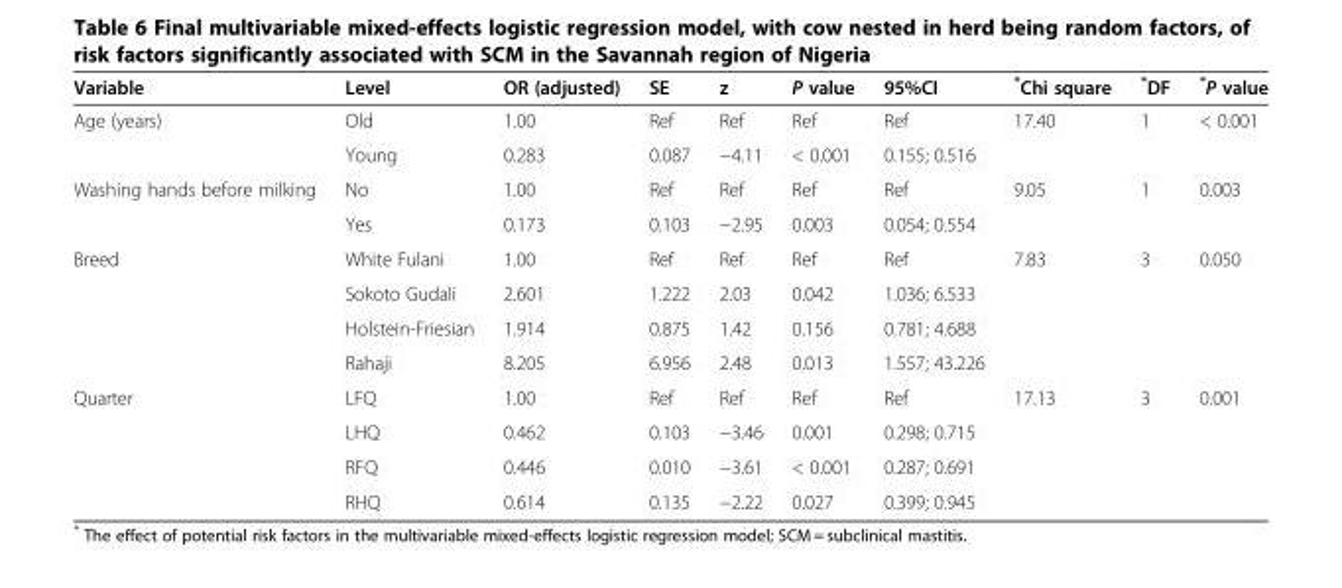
<table><thead><tr><td>Variable</td><td>Level</td><td>OR (adjusted)</td><td>SE</td><td>z</td><td>P value</td><td>95%CI</td><td>*Chi square</td><td>*DF</td><td>*P value</td></tr></thead><tbody><tr><td rowspan="2">Age (years)</td><td>Old</td><td>1.00</td><td>Ref</td><td>Ref</td><td>Ref</td><td>Ref</td><td>17.40</td><td>1</td><td>&lt; 0.001</td></tr><tr><td>Young</td><td>0.283</td><td>0.087</td><td>−4.11</td><td>&lt; 0.001</td><td>0.155; 0.516</td><td></td><td></td><td></td></tr><tr><td rowspan="2">Washing hands before milking</td><td>No</td><td>1.00</td><td>Ref</td><td>Ref</td><td>Ref</td><td>Ref</td><td>9.05</td><td>1</td><td>0.003</td></tr><tr><td>Yes</td><td>0.173</td><td>0.103</td><td>−2.95</td><td>0.003</td><td>0.054; 0.554</td><td></td><td></td><td></td></tr><tr><td rowspan="4">Breed</td><td>White Fulani</td><td>1.00</td><td>Ref</td><td>Ref</td><td>Ref</td><td>Ref</td><td>7.83</td><td>3</td><td>0.050</td></tr><tr><td>Sokoto Gudali</td><td>2.601</td><td>1.222</td><td>2.03</td><td>0.042</td><td>1.036; 6.533</td><td></td><td></td><td></td></tr><tr><td>Holstein-Friesian</td><td>1.914</td><td>0.875</td><td>1.42</td><td>0.156</td><td>0.781; 4.688</td><td></td><td></td><td></td></tr><tr><td>Rahaji</td><td>8.205</td><td>6.956</td><td>2.48</td><td>0.013</td><td>1.557; 43.226</td><td></td><td></td><td></td></tr><tr><td rowspan="4">Quarter</td><td>LFQ</td><td>1.00</td><td>Ref</td><td>Ref</td><td>Ref</td><td>Ref</td><td>17.13</td><td>3</td><td>0.001</td></tr><tr><td>LHQ</td><td>0.462</td><td>0.103</td><td>−3.46</td><td>0.001</td><td>0.298; 0.715</td><td></td><td></td><td></td></tr><tr><td>RFQ</td><td>0.446</td><td>0.010</td><td>−3.61</td><td>&lt; 0.001</td><td>0.287; 0.691</td><td></td><td></td><td></td></tr><tr><td>RHQ</td><td>0.614</td><td>0.135</td><td>−2.22</td><td>0.027</td><td>0.399; 0.945</td><td></td><td></td><td></td></tr></tbody></table>